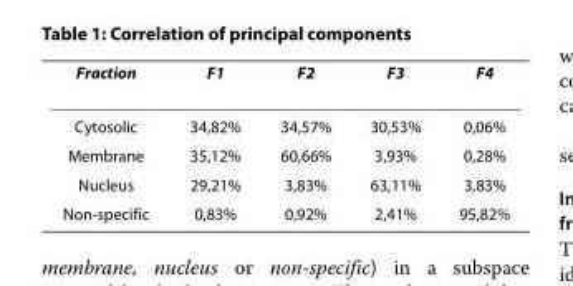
<table><thead><tr><td>Fraction</td><td>F1</td><td>F2</td><td>F3</td><td>F4</td></tr></thead><tbody><tr><td>Cytosolic</td><td>34,82%</td><td>34,57%</td><td>30,53%</td><td>0,06%</td></tr><tr><td>Membrane</td><td>35,12%</td><td>60,66%</td><td>3,93%</td><td>0,28%</td></tr><tr><td>Nucleus</td><td>29,21%</td><td>3,83%</td><td>63,11%</td><td>3,83%</td></tr><tr><td>Non-specific</td><td>0,83%</td><td>0,92%</td><td>2,41%</td><td>95,82%</td></tr></tbody></table>